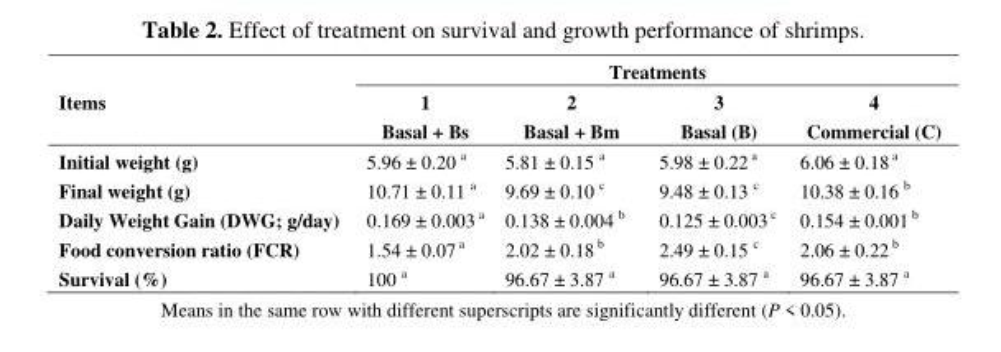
<table><thead><tr><td rowspan="2">Items</td><td colspan="4">Treatments</td></tr><tr><td>1 Basal + Bs</td><td>2 Basal + Bm</td><td>3 Basal (B)</td><td>4 Commercial (C)</td></tr></thead><tbody><tr><td>Initial weight (g)</td><td>5.96 ± 0.20 <sup>a</sup></td><td>5.81 ± 0.15 <sup>a</sup></td><td>5.98 ± 0.22 <sup>a</sup></td><td>6.06 ± 0.18 <sup>a</sup></td></tr><tr><td>Final weight (g)</td><td>10.71 ± 0.11 <sup>a</sup></td><td>9.69 ± 0.10 <sup>c</sup></td><td>9.48 ± 0.13 <sup>c</sup></td><td>10.38 ± 0.16 <sup>b</sup></td></tr><tr><td>Daily Weight Gain (DWG; g/day)</td><td>0.169 ± 0.003 <sup>a</sup></td><td>0.138 ± 0.004 <sup>b</sup></td><td>0.125 ± 0.003 <sup>c</sup></td><td>0.154 ± 0.001 <sup>b</sup></td></tr><tr><td>Food conversion ratio (FCR)</td><td>1.54 ± 0.07 <sup>a</sup></td><td>2.02 ± 0.18 <sup>b</sup></td><td>2.49 ± 0.15 <sup>c</sup></td><td>2.06 ± 0.22 <sup>b</sup></td></tr><tr><td>Survival (%)</td><td>100 <sup>a</sup></td><td>96.67 ± 3.87 <sup>a</sup></td><td>96.67 ± 3.87 <sup>a</sup></td><td>96.67 ± 3.87 <sup>a</sup></td></tr></tbody></table>